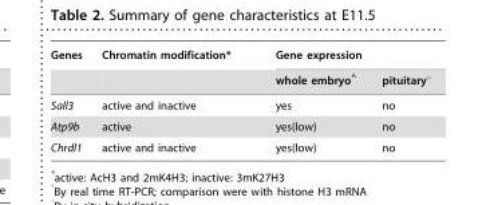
<table><thead><tr><td rowspan="2">Genes</td><td rowspan="2">Chromatin modification*</td><td colspan="2">Gene expression</td></tr><tr><td>whole embryo^</td><td>pituitary°</td></tr></thead><tbody><tr><td>Sall3</td><td>active and inactive</td><td>yes</td><td>no</td></tr><tr><td>Atp9b</td><td>active</td><td>yes(low)</td><td>no</td></tr><tr><td>Chrdl1</td><td>active and inactive</td><td>yes(low)</td><td>no</td></tr></tbody></table>